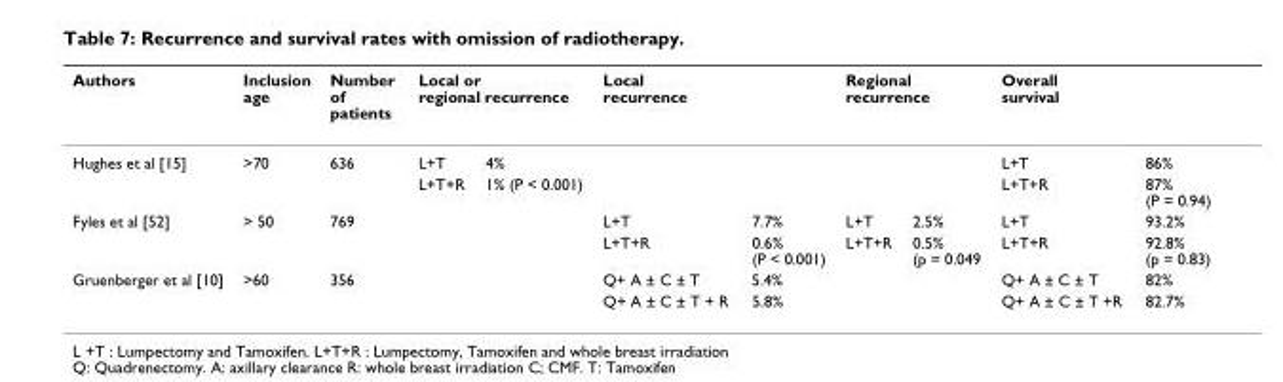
<table><thead><tr><td rowspan="2">Authors Hughes et al [15]</td><td rowspan="2">Inclusion age &gt;70</td><td rowspan="2">Number of patients 636</td><td colspan="2">Local or regional recurrence</td><td colspan="2">Local recurrence</td><td colspan="2">Regional recurrence</td><td colspan="2">Overall survival</td></tr><tr><td>L+T</td><td>4%</td><td></td><td></td><td></td><td></td><td>L+T</td><td>86%</td></tr></thead><tbody><tr><td></td><td></td><td></td><td>L+T+R</td><td>1% (P &lt; 0.001)</td><td></td><td></td><td></td><td></td><td>L+T+R</td><td>87% (P = 0.94)</td></tr><tr><td rowspan="2">Fyles et al [52]</td><td>&gt; 50</td><td>769</td><td></td><td></td><td>L+T</td><td>7.7%</td><td>L+T</td><td>2.5%</td><td>L+T</td><td>93.2%</td></tr><tr><td></td><td></td><td></td><td></td><td>L+T+R</td><td>0.6% (P &lt; 0.001)</td><td>L+T+R</td><td>0.5% (p = 0.049</td><td>L+T+R</td><td>92.8% (p = 0.83)</td></tr><tr><td rowspan="2">Gruenberger et al [10]</td><td>&gt;60</td><td>356</td><td></td><td></td><td>Q+ A ± C ± T</td><td>5.4%</td><td></td><td></td><td>Q+ A ± C ± T</td><td>82%</td></tr><tr><td></td><td></td><td></td><td></td><td>Q+ A ± C ± T + R</td><td>5.8%</td><td></td><td></td><td>Q+ A ± C ± T +R</td><td>82.7%</td></tr></tbody></table>